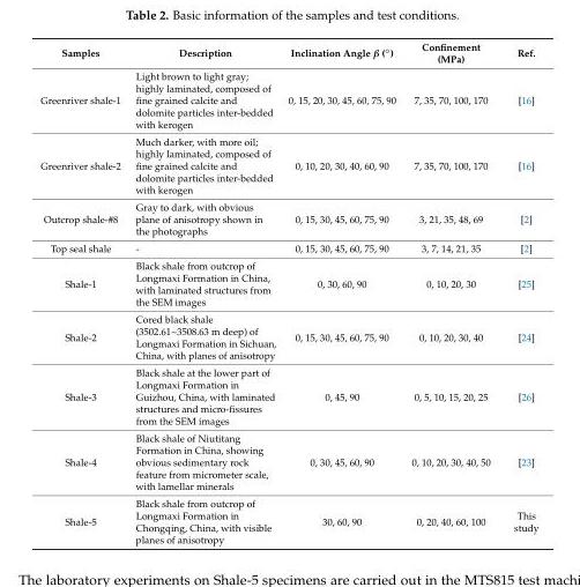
<table><thead><tr><td>Samples</td><td>Description</td><td>Inclination Angle β (◦)</td><td>Confinement (MPa)</td><td>Ref.</td></tr></thead><tbody><tr><td>Greenriver shale-1</td><td>Light brown to light gray; highly laminated, composed of fine grained calcite and dolomite particles inter-bedded with kerogen</td><td>0, 15, 20, 30, 45, 60, 75, 90</td><td>7, 35, 70, 100, 170</td><td>[16]</td></tr><tr><td>Greenriver shale-2</td><td>Much darker, with more oil; highly laminated, composed of fine grained calcite and dolomite particles inter-bedded with kerogen</td><td>0, 10, 20, 30, 40, 60, 90</td><td>7, 35, 70, 100, 170</td><td>[16]</td></tr><tr><td>Outcrop shale-#8</td><td>Gray to dark, with obvious plane of anisotropy shown in the photographs</td><td>0, 15, 30, 45, 60, 75, 90</td><td>3, 21, 35, 48, 69</td><td>[2]</td></tr><tr><td>Top seal shale</td><td>-</td><td>0, 15, 30, 45, 60, 75, 90</td><td>3, 7, 14, 21, 35</td><td>[2]</td></tr><tr><td>Shale-1</td><td>Black shale from outcrop of Longmaxi Formation in China, with laminated structures from the SEM images</td><td>0, 30, 60, 90</td><td>0, 10, 20, 30</td><td>[25]</td></tr><tr><td>Shale-2</td><td>Cored black shale (3502.61~3508.63 m deep) of Longmaxi Formation in Sichuan, China, with planes of anisotropy</td><td>0, 15, 30, 45, 60, 75, 90</td><td>0, 10, 20, 30, 40</td><td>[24]</td></tr><tr><td>Shale-3</td><td>Black shale at the lower part of Longmaxi Formation in Guizhou, China, with laminated structures and micro-fissures from the SEM images</td><td>0, 45, 90</td><td>0, 5, 10, 15, 20, 25</td><td>[26]</td></tr><tr><td>Shale-4</td><td>Black shale of Niutitang Formation in China, showing obvious sedimentary rock feature from micrometer scale, with lamellar minerals</td><td>0, 30, 45, 60, 90</td><td>0, 10, 20, 30, 40, 50</td><td>[23]</td></tr><tr><td>Shale-5</td><td>Black shale from outcrop of Longmaxi Formation in Chongqing, China, with visible planes of anisotropy</td><td>30, 60, 90</td><td>0, 20, 40, 60, 100</td><td>This study</td></tr></tbody></table>